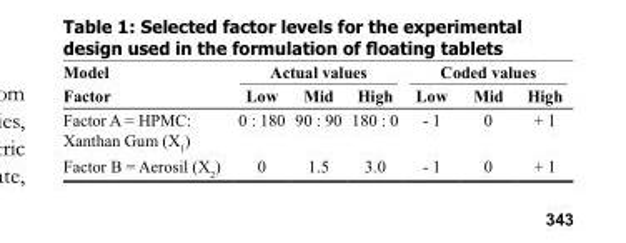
<table><thead><tr><td rowspan="2">Model Factor</td><td colspan="3">Actual values</td><td colspan="3">Coded values</td></tr><tr><td>Low</td><td>Mid</td><td>High</td><td>Low</td><td>Mid</td><td>High</td></tr></thead><tbody><tr><td>Factor A = HPMC: Xanthan Gum (X<sub>1</sub>)</td><td>0 : 180</td><td>90 : 90</td><td>180 : 0</td><td>- 1</td><td>0</td><td>+ 1</td></tr><tr><td>Factor B = Aerosil (X<sub>2</sub>)</td><td>0</td><td>1.5</td><td>3.0</td><td>- 1</td><td>0</td><td>+ 1</td></tr></tbody></table>